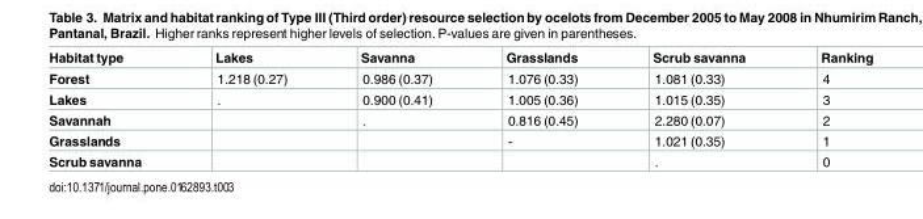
<table><thead><tr><td>Habitat type</td><td>Lakes</td><td>Savanna</td><td>Grasslands</td><td>Scrub savanna</td><td>Ranking</td></tr></thead><tbody><tr><td>Forest</td><td>1.218 (0.27)</td><td>0.986 (0.37)</td><td>1.076 (0.33)</td><td>1.081 (0.33)</td><td>4</td></tr><tr><td>Lakes</td><td>.</td><td>0.900 (0.41)</td><td>1.005 (0.36)</td><td>1.015 (0.35)</td><td>3</td></tr><tr><td>Savannah</td><td></td><td>.</td><td>0.816 (0.45)</td><td>2.280 (0.07)</td><td>2</td></tr><tr><td>Grasslands</td><td></td><td></td><td>-</td><td>1.021 (0.35)</td><td>1</td></tr><tr><td>Scrub savanna</td><td></td><td></td><td></td><td>.</td><td>0</td></tr></tbody></table>